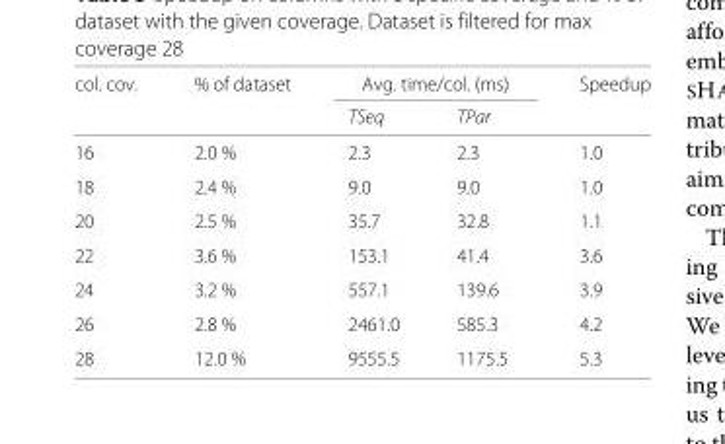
<table><thead><tr><td rowspan="2">col. cov.</td><td rowspan="2">% of dataset</td><td colspan="2">Avg. time/col. (ms)</td><td rowspan="2">Speedup</td></tr><tr><td>TSeq</td><td>TPar</td></tr></thead><tbody><tr><td>16</td><td>2.0 %</td><td>2.3</td><td>2.3</td><td>1.0</td></tr><tr><td>18</td><td>2.4 %</td><td>9.0</td><td>9.0</td><td>1.0</td></tr><tr><td>20</td><td>2.5 %</td><td>35.7</td><td>32.8</td><td>1.1</td></tr><tr><td>22</td><td>3.6 %</td><td>153.1</td><td>41.4</td><td>3.6</td></tr><tr><td>24</td><td>3.2 %</td><td>557.1</td><td>139.6</td><td>3.9</td></tr><tr><td>26</td><td>2.8 %</td><td>2461.0</td><td>585.3</td><td>4.2</td></tr><tr><td>28</td><td>12.0 %</td><td>9555.5</td><td>1175.5</td><td>5.3</td></tr></tbody></table>